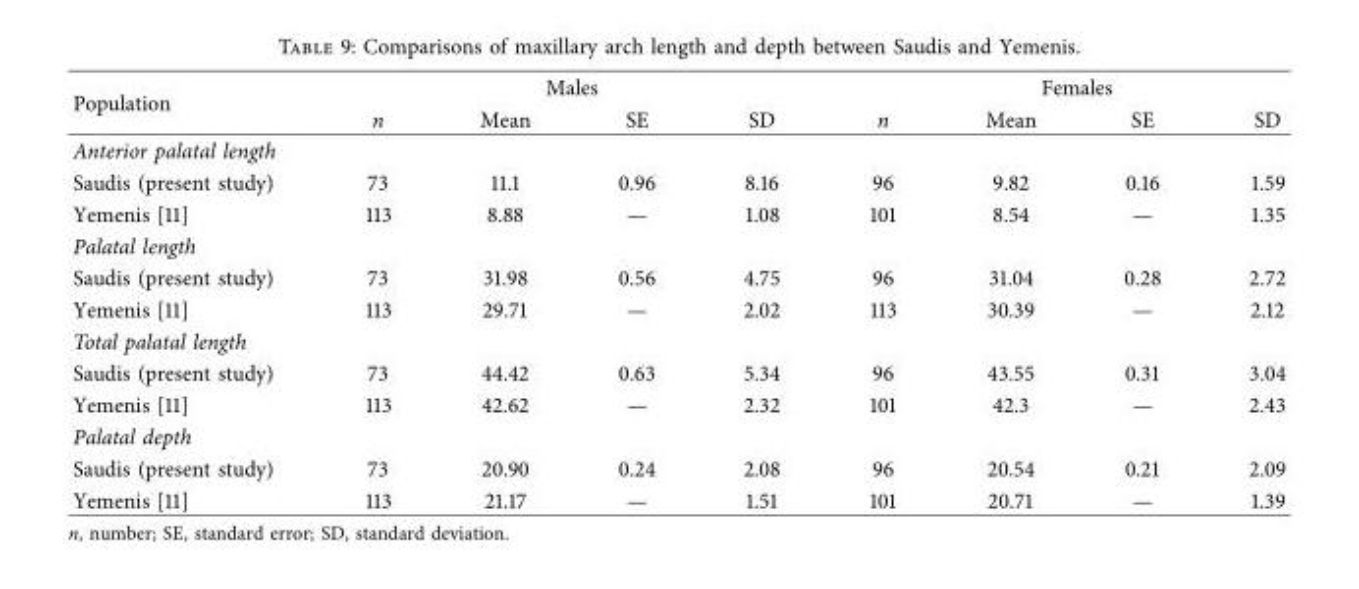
<table><thead><tr><td rowspan="2">Population</td><td colspan="4">Males</td><td colspan="4">Females</td></tr><tr><td>n</td><td>Mean</td><td>SE</td><td>SD</td><td>n</td><td>Mean</td><td>SE</td><td>SD</td></tr></thead><tbody><tr><td colspan="9">Anterior palatal length</td></tr><tr><td>Saudis (present study)</td><td>73</td><td>11.1</td><td>0.96</td><td>8.16</td><td>96</td><td>9.82</td><td>0.16</td><td>1.59</td></tr><tr><td>Yemenis [11]</td><td>113</td><td>8.88</td><td>—</td><td>1.08</td><td>101</td><td>8.54</td><td>—</td><td>1.35</td></tr><tr><td colspan="9">Palatal length</td></tr><tr><td>Saudis (present study)</td><td>73</td><td>31.98</td><td>0.56</td><td>4.75</td><td>96</td><td>31.04</td><td>0.28</td><td>2.72</td></tr><tr><td>Yemenis [11]</td><td>113</td><td>29.71</td><td>—</td><td>2.02</td><td>113</td><td>30.39</td><td>—</td><td>2.12</td></tr><tr><td colspan="9">Total palatal length</td></tr><tr><td>Saudis (present study)</td><td>73</td><td>44.42</td><td>0.63</td><td>5.34</td><td>96</td><td>43.55</td><td>0.31</td><td>3.04</td></tr><tr><td>Yemenis [11]</td><td>113</td><td>42.62</td><td>—</td><td>2.32</td><td>101</td><td>42.3</td><td>—</td><td>2.43</td></tr><tr><td colspan="9">Palatal depth</td></tr><tr><td>Saudis (present study)</td><td>73</td><td>20.90</td><td>0.24</td><td>2.08</td><td>96</td><td>20.54</td><td>0.21</td><td>2.09</td></tr><tr><td>Yemenis [11]</td><td>113</td><td>21.17</td><td>—</td><td>1.51</td><td>101</td><td>20.71</td><td>—</td><td>1.39</td></tr></tbody></table>